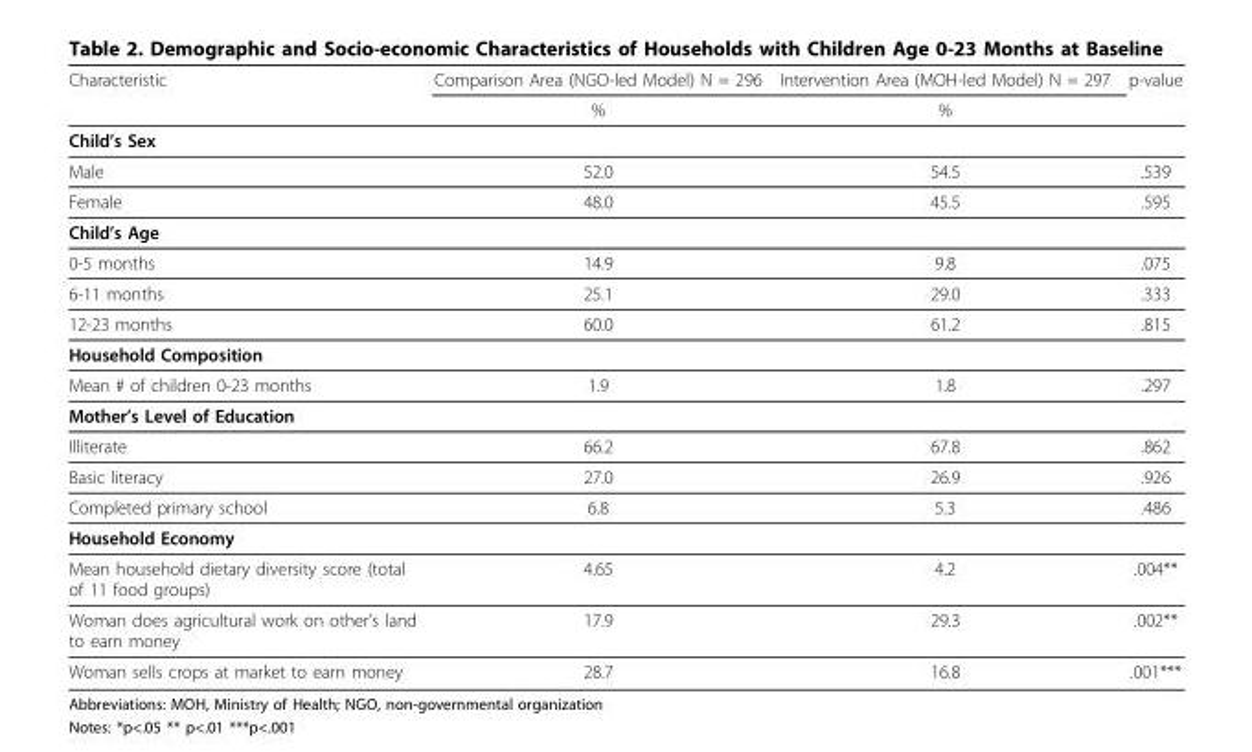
<table><thead><tr><td rowspan="2">Characteristic</td><td rowspan="2">Comparison Area (NGO-led Model) N = 296 %</td><td rowspan="2">Intervention Area (MOH-led Model) N = 297 %</td><td rowspan="2">p-value</td></tr><tr></tr></thead><tbody><tr><td colspan="4">Child’s Sex</td></tr><tr><td>Male</td><td>52.0</td><td>54.5</td><td>.539</td></tr><tr><td>Female</td><td>48.0</td><td>45.5</td><td>.595</td></tr><tr><td colspan="4">Child’s Age</td></tr><tr><td>0-5 months</td><td>14.9</td><td>9.8</td><td>.075</td></tr><tr><td>6-11 months</td><td>25.1</td><td>29.0</td><td>.333</td></tr><tr><td>12-23 months</td><td>60.0</td><td>61.2</td><td>.815</td></tr><tr><td colspan="4">Household Composition</td></tr><tr><td>Mean # of children 0-23 months</td><td>1.9</td><td>1.8</td><td>.297</td></tr><tr><td colspan="4">Mother’s Level of Education</td></tr><tr><td>Illiterate</td><td>66.2</td><td>67.8</td><td>.862</td></tr><tr><td>Basic literacy</td><td>27.0</td><td>26.9</td><td>.926</td></tr><tr><td>Completed primary school</td><td>6.8</td><td>5.3</td><td>.486</td></tr><tr><td colspan="4">Household Economy</td></tr><tr><td>Mean household dietary diversity score (total of 11 food groups)</td><td>4.65</td><td>4.2</td><td>.004**</td></tr><tr><td>Woman does agricultural work on other’s land to earn money</td><td>17.9</td><td>29.3</td><td>.002**</td></tr><tr><td>Woman sells crops at market to earn money</td><td>28.7</td><td>16.8</td><td>.001***</td></tr></tbody></table>